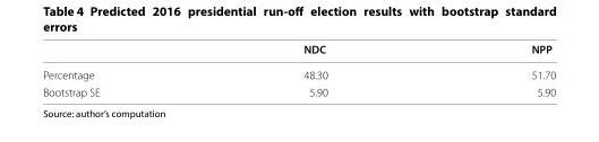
<table><thead><tr><td></td><td>NDC</td><td>NPP</td></tr></thead><tbody><tr><td>Percentage</td><td>48.30</td><td>51.70</td></tr><tr><td>Bootstrap SE</td><td>5.90</td><td>5.90</td></tr></tbody></table>